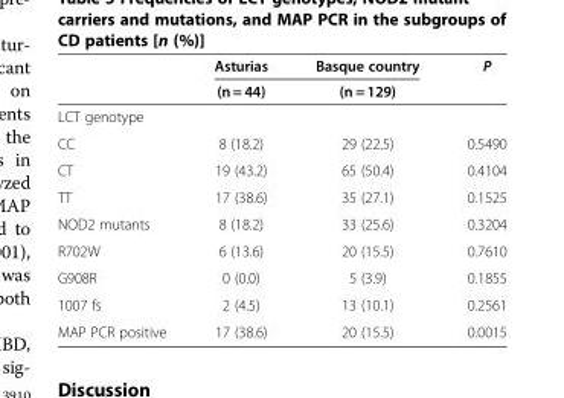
<table><thead><tr><td rowspan="2"></td><td rowspan="2">Asturias (n = 44)</td><td rowspan="2">Basque country (n = 129)</td><td rowspan="2">P</td></tr><tr></tr></thead><tbody><tr><td colspan="4">LCT genotype</td></tr><tr><td>CC</td><td>8 (18.2)</td><td>29 (22.5)</td><td>0.5490</td></tr><tr><td>CT</td><td>19 (43.2)</td><td>65 (50.4)</td><td>0.4104</td></tr><tr><td>TT</td><td>17 (38.6)</td><td>35 (27.1)</td><td>0.1525</td></tr><tr><td>NOD2 mutants</td><td>8 (18.2)</td><td>33 (25.6)</td><td>0.3204</td></tr><tr><td>R702W</td><td>6 (13.6)</td><td>20 (15.5)</td><td>0.7610</td></tr><tr><td>G908R</td><td>0 (0.0)</td><td>5 (3.9)</td><td>0.1855</td></tr><tr><td>1007 fs</td><td>2 (4.5)</td><td>13 (10.1)</td><td>0.2561</td></tr><tr><td>MAP PCR positive</td><td>17 (38.6)</td><td>20 (15.5)</td><td>0.0015</td></tr></tbody></table>